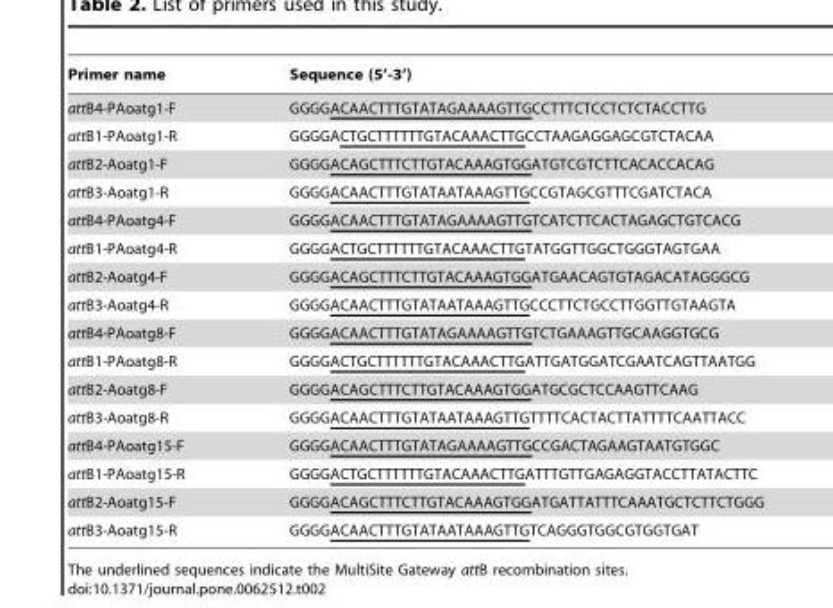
<table><thead><tr><td>Primer name</td><td>Sequence (5’-3’)</td></tr></thead><tbody><tr><td>attB4-PAoatg1-F</td><td>GGGGACAACTTTGTATAGAAAAGTTGCCTTTCTCCTCTCTACCTTG</td></tr><tr><td>attB1-PAoatg1-R</td><td>GGGGACTGCTTTTTTGTACAAACTTGCCTAAGAGGAGCGTCTACAA</td></tr><tr><td>attB2-Aoatg1-F</td><td>GGGGACAGCTTTCTTGTACAAAGTGGATGTCGTCTTCACACCACAG</td></tr><tr><td>attB3-Aoatg1-R</td><td>GGGGACAACTTTGTATAATAAAGTTGCCGTAGCGTTTCGATCTACA</td></tr><tr><td>attB4-PAoatg4-F</td><td>GGGGACAACTTTGTATAGAAAAGTTGTCATCTTCACTAGAGCTGTCACG</td></tr><tr><td>attB1-PAoatg4-R</td><td>GGGGACTGCTTTTTTGTACAAACTTGTATGGTTGGCTGGGTAGTGAA</td></tr><tr><td>attB2-Aoatg4-F</td><td>GGGGACAGCTTTCTTGTACAAAGTGGATGAACAGTGTAGACATAGGGCG</td></tr><tr><td>attB3-Aoatg4-R</td><td>GGGGACAACTTTGTATAATAAAGTTGCCCTTCTGCCTTGGTTGTAAGTA</td></tr><tr><td>attB4-PAoatg8-F</td><td>GGGGACAACTTTGTATAGAAAAGTTGTCTGAAAGTTGCAAGGTGCG</td></tr><tr><td>attB1-PAoatg8-R</td><td>GGGGACTGCTTTTTTGTACAAACTTGATTGATGGATCGAATCAGTTAATGG</td></tr><tr><td>attB2-Aoatg8-F</td><td>GGGGACAGCTTTCTTGTACAAAGTGGATGCGCTCCAAGTTCAAG</td></tr><tr><td>attB3-Aoatg8-R</td><td>GGGGACAACTTTGTATAATAAAGTTGTTTTCACTACTTATTTTCAATTACC</td></tr><tr><td>attB4-PAoatg15-F</td><td>GGGGACAACTTTGTATAGAAAAGTTGCCGACTAGAAGTAATGTGGC</td></tr><tr><td>attB1-PAoatg15-R</td><td>GGGGACTGCTTTTTTGTACAAACTTGATTTGTTGAGAGGTACCTTATACTTC</td></tr><tr><td>attB2-Aoatg15-F</td><td>GGGGACAGCTTTCTTGTACAAAGTGGATGATTATTTCAAATGCTCTTCTGGG</td></tr><tr><td>attB3-Aoatg15-R</td><td>GGGGACAACTTTGTATAATAAAGTTGTCAGGGTGGCGTGGTGAT</td></tr></tbody></table>